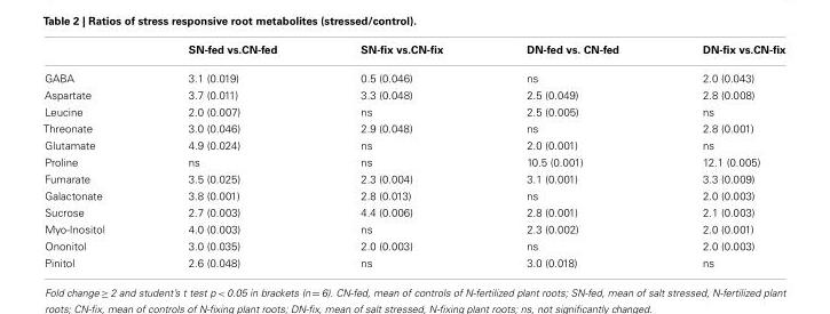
<table><thead><tr><td></td><td>SN-fed vs.CN-fed</td><td>SN-fix vs.CN-fix</td><td>DN-fed vs. CN-fed</td><td>DN-fix vs.CN-fix</td></tr></thead><tbody><tr><td>GABA</td><td>3.1 (0.019)</td><td>0.5 (0.046)</td><td>ns</td><td>2.0 (0.043)</td></tr><tr><td>Aspartate</td><td>3.7 (0.011)</td><td>3.3 (0.048)</td><td>2.5 (0.049)</td><td>2.8 (0.008)</td></tr><tr><td>Leucine</td><td>2.0 (0.007)</td><td>ns</td><td>2.5 (0.005)</td><td>ns</td></tr><tr><td>Threonate</td><td>3.0 (0.046)</td><td>2.9 (0.048)</td><td>ns</td><td>2.8 (0.001)</td></tr><tr><td>Glutamate</td><td>4.9 (0.024)</td><td>ns</td><td>2.0 (0.001)</td><td>ns</td></tr><tr><td>Proline</td><td>ns</td><td>ns</td><td>10.5 (0.001)</td><td>12.1 (0.005)</td></tr><tr><td>Fumarate</td><td>3.5 (0.025)</td><td>2.3 (0.004)</td><td>3.1 (0.001)</td><td>3.3 (0.009)</td></tr><tr><td>Galactonate</td><td>3.8 (0.001)</td><td>2.8 (0.013)</td><td>ns</td><td>2.0 (0.003)</td></tr><tr><td>Sucrose</td><td>2.7 (0.003)</td><td>4.4 (0.006)</td><td>2.8 (0.001)</td><td>2.1 (0.003)</td></tr><tr><td>Myo-Inositol</td><td>4.0 (0.003)</td><td>ns</td><td>2.3 (0.002)</td><td>2.0 (0.001)</td></tr><tr><td>Ononitol</td><td>3.0 (0.035)</td><td>2.0 (0.003)</td><td>ns</td><td>2.0 (0.003)</td></tr><tr><td>Pinitol</td><td>2.6 (0.048)</td><td>ns</td><td>3.0 (0.018)</td><td>ns</td></tr></tbody></table>